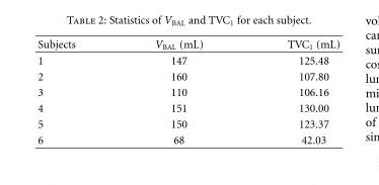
<table><thead><tr><td>Subjects</td><td>V<sub>BAL</sub> (mL)</td><td>TVC<sub>1</sub> (mL)</td></tr></thead><tbody><tr><td>1</td><td>147</td><td>125.48</td></tr><tr><td>2</td><td>160</td><td>107.80</td></tr><tr><td>3</td><td>110</td><td>106.16</td></tr><tr><td>4</td><td>151</td><td>130.00</td></tr><tr><td>5</td><td>150</td><td>123.37</td></tr><tr><td>6</td><td>68</td><td>42.03</td></tr></tbody></table>